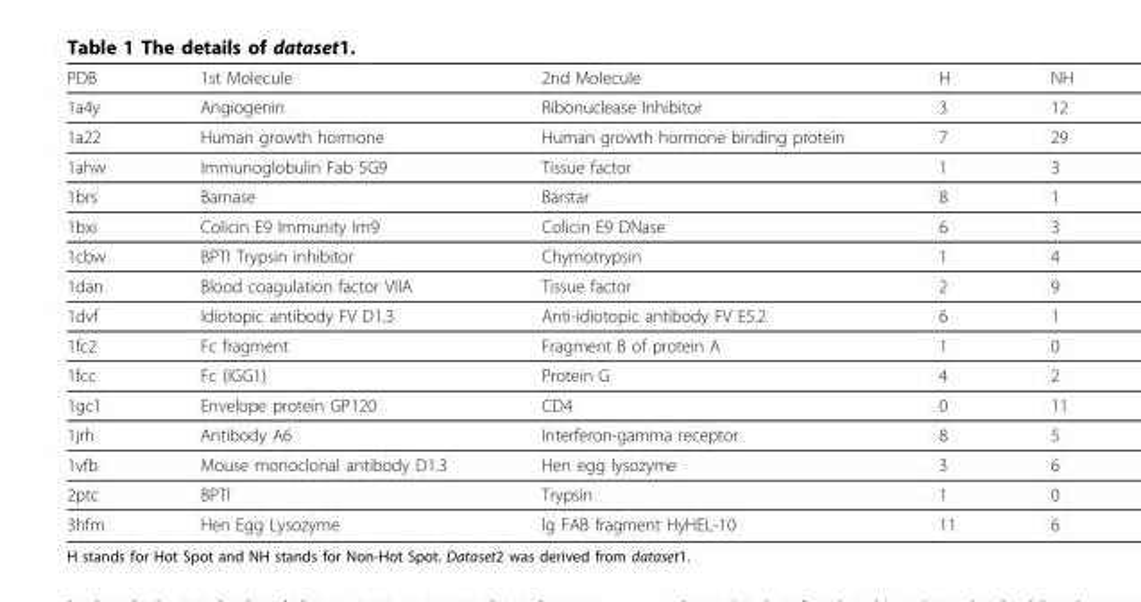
<table><thead><tr><td>PDB</td><td>1st Molecule</td><td>2nd Molecule</td><td>H</td><td>NH</td></tr></thead><tbody><tr><td>1a4y</td><td>Angiogenin</td><td>Ribonuclease Inhibitor</td><td>3</td><td>12</td></tr><tr><td>1a22</td><td>Human growth hormone</td><td>Human growth hormone binding protein</td><td>7</td><td>29</td></tr><tr><td>1ahw</td><td>Immunoglobulin Fab 5G9</td><td>Tissue factor</td><td>1</td><td>3</td></tr><tr><td>1brs</td><td>Barnase</td><td>Barstar</td><td>8</td><td>1</td></tr><tr><td>1bxi</td><td>Colicin E9 Immunity Im9</td><td>Colicin E9 DNase</td><td>6</td><td>3</td></tr><tr><td>1cbw</td><td>BPTI Trypsin inhibitor</td><td>Chymotrypsin</td><td>1</td><td>4</td></tr><tr><td>1dan</td><td>Blood coagulation factor VIIA</td><td>Tissue factor</td><td>2</td><td>9</td></tr><tr><td>1dvf</td><td>Idiotopic antibody FV D1.3</td><td>Anti-idiotopic antibody FV E5.2</td><td>6</td><td>1</td></tr><tr><td>1fc2</td><td>Fc fragment</td><td>Fragment B of protein A</td><td>1</td><td>0</td></tr><tr><td>1fcc</td><td>Fc (IGG1)</td><td>Protein G</td><td>4</td><td>2</td></tr><tr><td>1gc1</td><td>Envelope protein GP120</td><td>CD4</td><td>0</td><td>11</td></tr><tr><td>1jrh</td><td>Antibody A6</td><td>Interferon-gamma receptor</td><td>8</td><td>5</td></tr><tr><td>1vfb</td><td>Mouse monoclonal antibody D1.3</td><td>Hen egg lysozyme</td><td>3</td><td>6</td></tr><tr><td>2ptc</td><td>BPTI</td><td>Trypsin</td><td>1</td><td>0</td></tr><tr><td>3hfm</td><td>Hen Egg Lysozyme</td><td>lg FAB fragment HyHEL-10</td><td>11</td><td>6</td></tr></tbody></table>